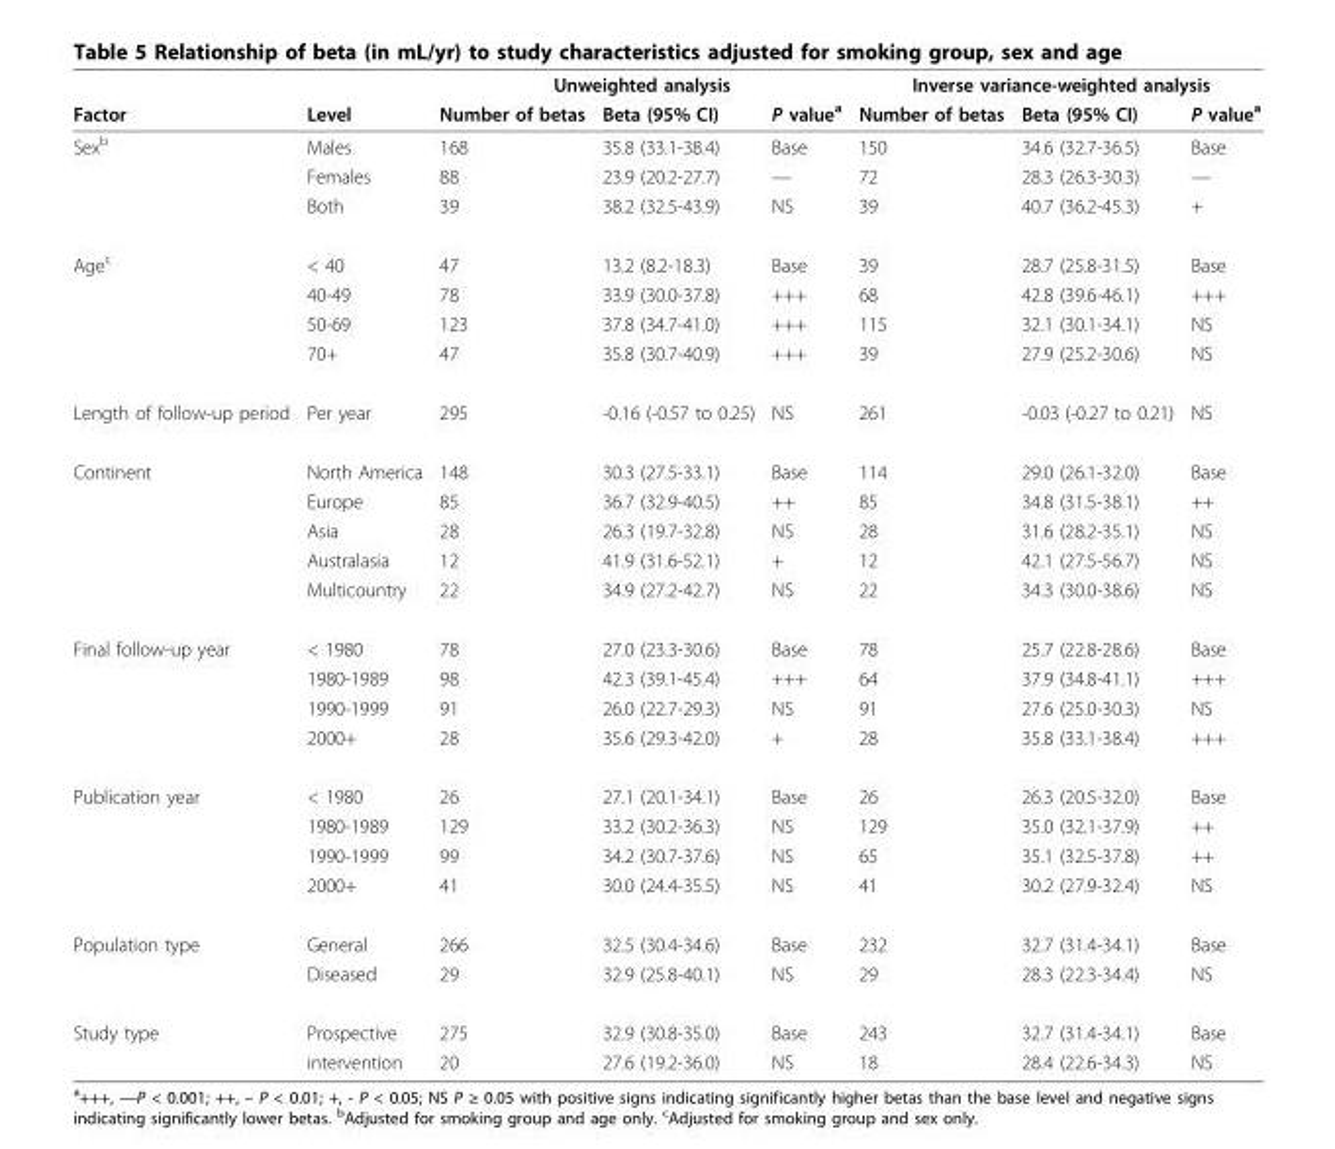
<table><thead><tr><td rowspan="2">Factor</td><td rowspan="2">Level</td><td colspan="3">Unweighted analysis</td><td colspan="3">Inverse variance-weighted analysis</td></tr><tr><td>Number of betas</td><td>Beta (95% CI)</td><td>P value<sup>a</sup></td><td>Number of betas</td><td>Beta (95% CI)</td><td>P value<sup>a</sup></td></tr></thead><tbody><tr><td rowspan="3">Sex<sup>b</sup></td><td>Males</td><td>168</td><td>35.8 (33.1-38.4)</td><td>Base</td><td>150</td><td>34.6 (32.7-36.5)</td><td>Base</td></tr><tr><td>Females</td><td>88</td><td>23.9 (20.2-27.7)</td><td>—</td><td>72</td><td>28.3 (26.3-30.3)</td><td>—</td></tr><tr><td>Both</td><td>39</td><td>38.2 (32.5-43.9)</td><td>NS</td><td>39</td><td>40.7 (36.2-45.3)</td><td>+</td></tr><tr><td rowspan="4">Age<sup>c</sup></td><td>&lt; 40</td><td>47</td><td>13.2 (8.2-18.3)</td><td>Base</td><td>39</td><td>28.7 (25.8-31.5)</td><td>Base</td></tr><tr><td>40-49</td><td>78</td><td>33.9 (30.0-37.8)</td><td>+++</td><td>68</td><td>42.8 (39.6-46.1)</td><td>+++</td></tr><tr><td>50-69</td><td>123</td><td>37.8 (34.7-41.0)</td><td>+++</td><td>115</td><td>32.1 (30.1-34.1)</td><td>NS</td></tr><tr><td>70+</td><td>47</td><td>35.8 (30.7-40.9)</td><td>+++</td><td>39</td><td>27.9 (25.2-30.6)</td><td>NS</td></tr><tr><td>Length of follow-up period</td><td>Per year</td><td>295</td><td>-0.16 (-0.57 to 0.25)</td><td>NS</td><td>261</td><td>-0.03 (-0.27 to 0.21)</td><td>NS</td></tr><tr><td rowspan="5">Continent</td><td>North America</td><td>148</td><td>30.3 (27.5-33.1)</td><td>Base</td><td>114</td><td>29.0 (26.1-32.0)</td><td>Base</td></tr><tr><td>Europe</td><td>85</td><td>36.7 (32.9-40.5)</td><td>++</td><td>85</td><td>34.8 (31.5-38.1)</td><td>++</td></tr><tr><td>Asia</td><td>28</td><td>26.3 (19.7-32.8)</td><td>NS</td><td>28</td><td>31.6 (28.2-35.1)</td><td>NS</td></tr><tr><td>Australasia</td><td>12</td><td>41.9 (31.6-52.1)</td><td>+</td><td>12</td><td>42.1 (27.5-56.7)</td><td>NS</td></tr><tr><td>Multicountry</td><td>22</td><td>34.9 (27.2-42.7)</td><td>NS</td><td>22</td><td>34.3 (30.0-38.6)</td><td>NS</td></tr><tr><td rowspan="4">Final follow-up year</td><td>&lt; 1980</td><td>78</td><td>27.0 (23.3-30.6)</td><td>Base</td><td>78</td><td>25.7 (22.8-28.6)</td><td>Base</td></tr><tr><td>1980-1989</td><td>98</td><td>42.3 (39.1-45.4)</td><td>+++</td><td>64</td><td>37.9 (34.8-41.1)</td><td>+++</td></tr><tr><td>1990-1999</td><td>91</td><td>26.0 (22.7-29.3)</td><td>NS</td><td>91</td><td>27.6 (25.0-30.3)</td><td>NS</td></tr><tr><td>2000+</td><td>28</td><td>35.6 (29.3-42.0)</td><td>+</td><td>28</td><td>35.8 (33.1-38.4)</td><td>+++</td></tr><tr><td rowspan="4">Publication year</td><td>&lt; 1980</td><td>26</td><td>27.1 (20.1-34.1)</td><td>Base</td><td>26</td><td>26.3 (20.5-32.0)</td><td>Base</td></tr><tr><td>1980-1989</td><td>129</td><td>33.2 (30.2-36.3)</td><td>NS</td><td>129</td><td>35.0 (32.1-37.9)</td><td>++</td></tr><tr><td>1990-1999</td><td>99</td><td>34.2 (30.7-37.6)</td><td>NS</td><td>65</td><td>35.1 (32.5-37.8)</td><td>++</td></tr><tr><td>2000+</td><td>41</td><td>30.0 (24.4-35.5)</td><td>NS</td><td>41</td><td>30.2 (27.9-32.4)</td><td>NS</td></tr><tr><td rowspan="2">Population type</td><td>General</td><td>266</td><td>32.5 (30.4-34.6)</td><td>Base</td><td>232</td><td>32.7 (31.4-34.1)</td><td>Base</td></tr><tr><td>Diseased</td><td>29</td><td>32.9 (25.8-40.1)</td><td>NS</td><td>29</td><td>28.3 (22.3-34.4)</td><td>NS</td></tr><tr><td rowspan="2">Study type</td><td>Prospective</td><td>275</td><td>32.9 (30.8-35.0)</td><td>Base</td><td>243</td><td>32.7 (31.4-34.1)</td><td>Base</td></tr><tr><td>intervention</td><td>20</td><td>27.6 (19.2-36.0)</td><td>NS</td><td>18</td><td>28.4 (22.6-34.3)</td><td>NS</td></tr></tbody></table>